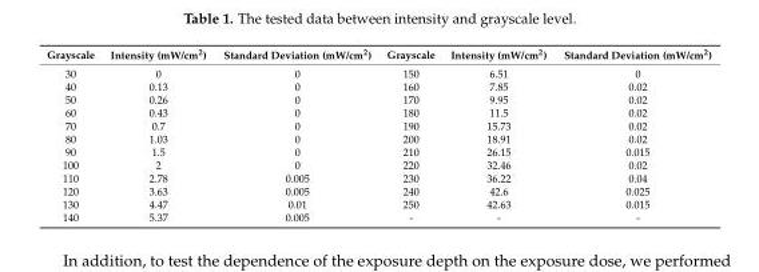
<table><thead><tr><td>Grayscale</td><td>Intensity (mW/cm<sup>2</sup>)</td><td>Standard Deviation (mW/cm<sup>2</sup>)</td><td>Grayscale</td><td>Intensity (mW/cm<sup>2</sup>)</td><td>Standard Deviation (mW/cm<sup>2</sup>)</td></tr></thead><tbody><tr><td>30</td><td>0</td><td>0</td><td>150</td><td>6.51</td><td>0</td></tr><tr><td>40</td><td>0.13</td><td>0</td><td>160</td><td>7.85</td><td>0.02</td></tr><tr><td>50</td><td>0.26</td><td>0</td><td>170</td><td>9.95</td><td>0.02</td></tr><tr><td>60</td><td>0.43</td><td>0</td><td>180</td><td>11.5</td><td>0.02</td></tr><tr><td>70</td><td>0.7</td><td>0</td><td>190</td><td>15.73</td><td>0.02</td></tr><tr><td>80</td><td>1.03</td><td>0</td><td>200</td><td>18.91</td><td>0.02</td></tr><tr><td>90</td><td>1.5</td><td>0</td><td>210</td><td>26.15</td><td>0.015</td></tr><tr><td>100</td><td>2</td><td>0</td><td>220</td><td>32.46</td><td>0.02</td></tr><tr><td>110</td><td>2.78</td><td>0.005</td><td>230</td><td>36.22</td><td>0.04</td></tr><tr><td>120</td><td>3.63</td><td>0.005</td><td>240</td><td>42.6</td><td>0.025</td></tr><tr><td>130</td><td>4.47</td><td>0.01</td><td>250</td><td>42.63</td><td>0.015</td></tr><tr><td>140</td><td>5.37</td><td>0.005</td><td>-</td><td>-</td><td>-</td></tr></tbody></table>